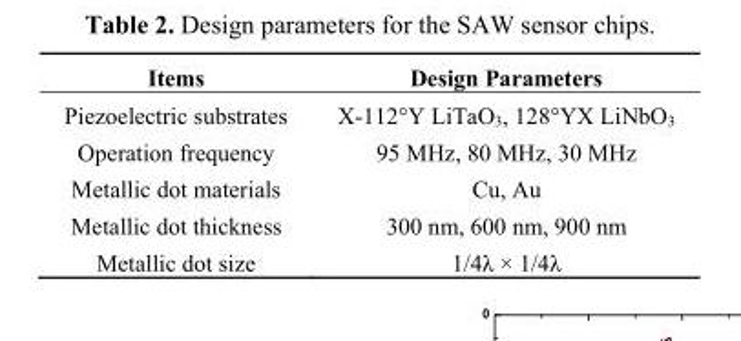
<table><thead><tr><td>Items</td><td>Design Parameters</td></tr></thead><tbody><tr><td>Piezoelectric substrates</td><td>X-112°Y LiTaO<sub>3</sub>, 128°YX LiNbO<sub>3</sub></td></tr><tr><td>Operation frequency</td><td>95 MHz, 80 MHz, 30 MHz</td></tr><tr><td>Metallic dot materials</td><td>Cu, Au</td></tr><tr><td>Metallic dot thickness</td><td>300 nm, 600 nm, 900 nm</td></tr><tr><td>Metallic dot size</td><td>1/4λ × 1/4λ</td></tr></tbody></table>